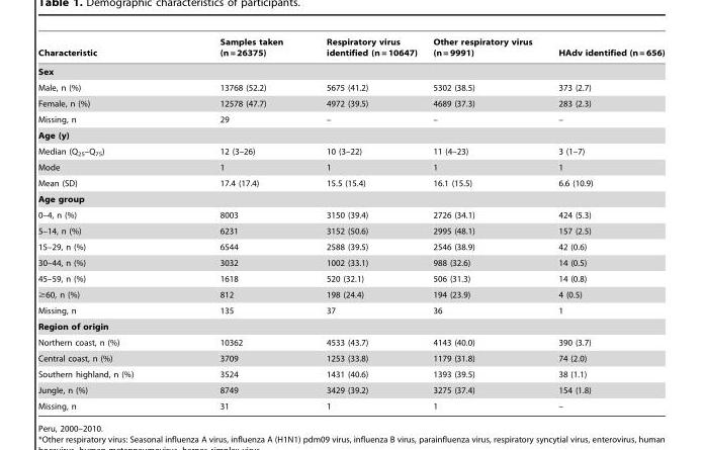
<table><thead><tr><td>Characteristic</td><td>Samples taken (n = 26375)</td><td>Respiratory virus identified (n = 10647)</td><td>Other respiratory virus (n = 9991)</td><td>HAdv identified (n = 656)</td></tr></thead><tbody><tr><td colspan="5">Sex</td></tr><tr><td>Male, n (%)</td><td>13768 (52.2)</td><td>5675 (41.2)</td><td>5302 (38.5)</td><td>373 (2.7)</td></tr><tr><td>Female, n (%)</td><td>12578 (47.7)</td><td>4972 (39.5)</td><td>4689 (37.3)</td><td>283 (2.3)</td></tr><tr><td>Missing, n</td><td>29</td><td>–</td><td>–</td><td>–</td></tr><tr><td colspan="5">Age (y)</td></tr><tr><td>Median (Q<sub>25</sub>–Q<sub>75</sub>)</td><td>12 (3–26)</td><td>10 (3–22)</td><td>11 (4–23)</td><td>3 (1–7)</td></tr><tr><td>Mode</td><td>1</td><td>1</td><td>1</td><td>1</td></tr><tr><td>Mean (SD)</td><td>17.4 (17.4)</td><td>15.5 (15.4)</td><td>16.1 (15.5)</td><td>6.6 (10.9)</td></tr><tr><td colspan="5">Age group</td></tr><tr><td>0–4, n (%)</td><td>8003</td><td>3150 (39.4)</td><td>2726 (34.1)</td><td>424 (5.3)</td></tr><tr><td>5–14, n (%)</td><td>6231</td><td>3152 (50.6)</td><td>2995 (48.1)</td><td>157 (2.5)</td></tr><tr><td>15–29, n (%)</td><td>6544</td><td>2588 (39.5)</td><td>2546 (38.9)</td><td>42 (0.6)</td></tr><tr><td>30–44, n (%)</td><td>3032</td><td>1002 (33.1)</td><td>988 (32.6)</td><td>14 (0.5)</td></tr><tr><td>45–59, n (%)</td><td>1618</td><td>520 (32.1)</td><td>506 (31.3)</td><td>14 (0.8)</td></tr><tr><td>≥60, n (%)</td><td>812</td><td>198 (24.4)</td><td>194 (23.9)</td><td>4 (0.5)</td></tr><tr><td>Missing, n</td><td>135</td><td>37</td><td>36</td><td>1</td></tr><tr><td colspan="5">Region of origin</td></tr><tr><td>Northern coast, n (%)</td><td>10362</td><td>4533 (43.7)</td><td>4143 (40.0)</td><td>390 (3.7)</td></tr><tr><td>Central coast, n (%)</td><td>3709</td><td>1253 (33.8)</td><td>1179 (31.8)</td><td>74 (2.0)</td></tr><tr><td>Southern highland, n (%)</td><td>3524</td><td>1431 (40.6)</td><td>1393 (39.5)</td><td>38 (1.1)</td></tr><tr><td>Jungle, n (%)</td><td>8749</td><td>3429 (39.2)</td><td>3275 (37.4)</td><td>154 (1.8)</td></tr><tr><td>Missing, n</td><td>31</td><td>1</td><td>1</td><td>–</td></tr></tbody></table>